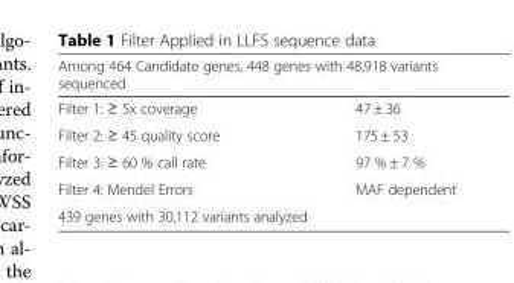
<table><thead><tr><td colspan="2">Among 464 Candidate genes, 448 genes with 48,918 variants sequenced</td></tr><tr><td>Filter 1: ≥ 5x coverage</td><td>47 ± 36</td></tr></thead><tbody><tr><td>Filter 2: ≥ 45 quality score</td><td>175 ± 53</td></tr><tr><td>Filter 3: ≥ 60 % call rate</td><td>97 % ± 7 %</td></tr><tr><td>Filter 4: Mendel Errors</td><td>MAF dependent</td></tr><tr><td colspan="2">439 genes with 30,112 variants analyzed</td></tr></tbody></table>